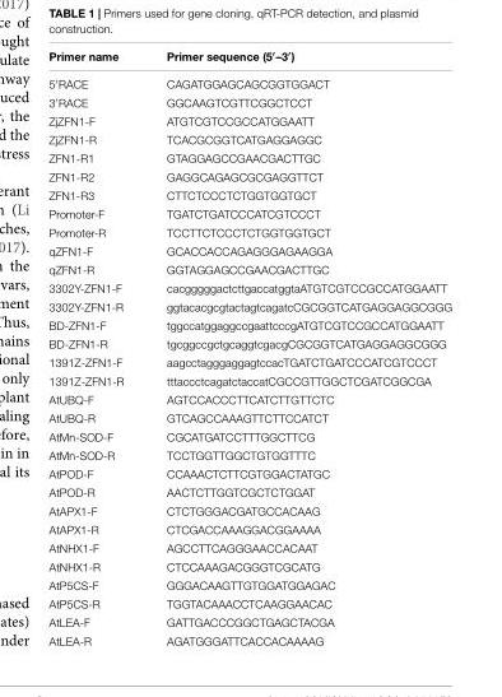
<table><thead><tr><td>Primer name</td><td>Primer sequence (5′–3′)</td></tr></thead><tbody><tr><td>5′RACE</td><td>CAGATGGAGCAGCGGTGGACT</td></tr><tr><td>3′RACE</td><td>GGCAAGTCGTTCGGCTCCT</td></tr><tr><td>ZjZFN1-F</td><td>ATGTCGTCCGCCATGGAATT</td></tr><tr><td>ZjZFN1-R</td><td>TCACGCGGTCATGAGGAGGC</td></tr><tr><td>ZFN1-R1</td><td>GTAGGAGCCGAACGACTTGC</td></tr><tr><td>ZFN1-R2</td><td>GAGGCAGAGCGCGAGGTTCT</td></tr><tr><td>ZFN1-R3</td><td>CTTCTCCCTCTGGTGGTGCT</td></tr><tr><td>Promoter-F</td><td>TGATCTGATCCCATCGTCCCT</td></tr><tr><td>Promoter-R</td><td>TCCTTCTCCCTCTGGTGGTGCT</td></tr><tr><td>qZFN1-F</td><td>GCACCACCAGAGGGAGAAGGA</td></tr><tr><td>qZFN1-R</td><td>GGTAGGAGCCGAACGACTTGC</td></tr><tr><td>3302Y-ZFN1-F</td><td>cacgggggactcttgaccatggtaATGTCGTCCGCCATGGAATT</td></tr><tr><td>3302Y-ZFN1-R</td><td>ggtacacgcgtactagtcagatcCGCGGTCATGAGGAGGCGGG</td></tr><tr><td>BD-ZFN1-F</td><td>tggccatggaggccgaattcccgATGTCGTCCGCCATGGAATT</td></tr><tr><td>BD-ZFN1-R</td><td>tgcggccgctgcaggtcgacgCGCGGTCATGAGGAGGCGGG</td></tr><tr><td>1391Z-ZFN1-F</td><td>aagcctagggaggagtccacTGATCTGATCCCATCGTCCCT</td></tr><tr><td>1391Z-ZFN1-R</td><td>tttaccctcagatctaccatCGCCGTTGGCTCGATCGGCGA</td></tr><tr><td>AtUBQ-F</td><td>AGTCCACCCTTCATCTTGTTCTC</td></tr><tr><td>AtUBQ-R</td><td>GTCAGCCAAAGTTCTTCCATCT</td></tr><tr><td>AtMn-SOD-F</td><td>CGCATGATCCTTTGGCTTCG</td></tr><tr><td>AtMn-SOD-R</td><td>TCCTGGTTGGCTGTGGTTTC</td></tr><tr><td>AtPOD-F</td><td>CCAAACTCTTCGTGGACTATGC</td></tr><tr><td>AtPOD-R</td><td>AACTCTTGGTCGCTCTGGAT</td></tr><tr><td>AtAPX1-F</td><td>CTCTGGGACGATGCCACAAG</td></tr><tr><td>AtAPX1-R</td><td>CTCGACCAAAGGACGGAAAA</td></tr><tr><td>AtNHX1-F</td><td>AGCCTTCAGGGAACCACAAT</td></tr><tr><td>AtNHX1-R</td><td>CTCCAAAGACGGGTCGCATG</td></tr><tr><td>AtP5CS-F</td><td>GGGACAAGTTGTGGATGGAGAC</td></tr><tr><td>AtP5CS-R</td><td>TGGTACAAACCTCAAGGAACAC</td></tr><tr><td>AtLEA-F</td><td>GATTGACCCGGCTGAGCTACGA</td></tr><tr><td>AtLEA-R</td><td>AGATGGGATTCACCACAAAAG</td></tr></tbody></table>